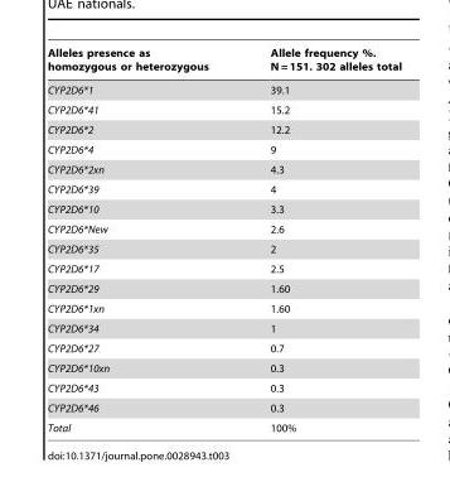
<table><thead><tr><td>Alleles presence as homozygous or heterozygous</td><td>Allele frequency %. N = 151. 302 alleles total</td></tr></thead><tbody><tr><td>CYP2D6*1</td><td>39.1</td></tr><tr><td>CYP2D6*41</td><td>15.2</td></tr><tr><td>CYP2D6*2</td><td>12.2</td></tr><tr><td>CYP2D6*4</td><td>9</td></tr><tr><td>CYP2D6*2xn</td><td>4.3</td></tr><tr><td>CYP2D6*39</td><td>4</td></tr><tr><td>CYP2D6*10</td><td>3.3</td></tr><tr><td>CYP2D6*New</td><td>2.6</td></tr><tr><td>CYP2D6*35</td><td>2</td></tr><tr><td>CYP2D6*17</td><td>2.5</td></tr><tr><td>CYP2D6*29</td><td>1.60</td></tr><tr><td>CYP2D6*1xn</td><td>1.60</td></tr><tr><td>CYP2D6*34</td><td>1</td></tr><tr><td>CYP2D6*27</td><td>0.7</td></tr><tr><td>CYP2D6*10xn</td><td>0.3</td></tr><tr><td>CYP2D6*43</td><td>0.3</td></tr><tr><td>CYP2D6*46</td><td>0.3</td></tr><tr><td>Total</td><td>100%</td></tr></tbody></table>